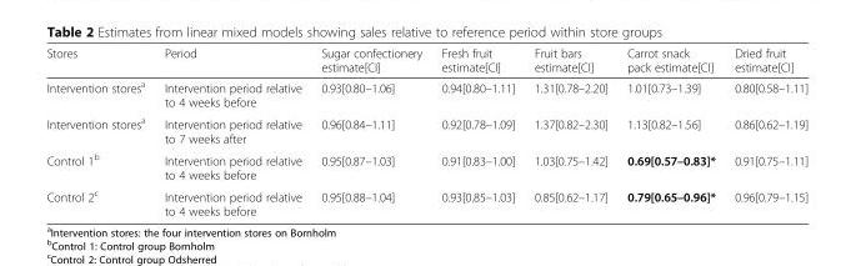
<table><thead><tr><td>Stores</td><td>Period</td><td>Sugar confectionery estimate[CI]</td><td>Fresh fruit estimate[CI]</td><td>Fruit bars estimate[CI]</td><td>Carrot snack pack estimate[CI]</td><td>Dried fruit estimate[CI]</td></tr></thead><tbody><tr><td>Intervention stores<sup>a</sup></td><td>Intervention period relative to 4 weeks before</td><td>0.93[0.80–1.06]</td><td>0.94[0.80–1.11]</td><td>1.31[0.78–2.20]</td><td>1.01[0.73–1.39]</td><td>0.80[0.58–1.11]</td></tr><tr><td>Intervention stores<sup>a</sup></td><td>Intervention period relative to 7 weeks after</td><td>0.96[0.84–1.11]</td><td>0.92[0.78–1.09]</td><td>1.37[0.82–2.30]</td><td>1.13[0.82–1.56]</td><td>0.86[0.62–1.19]</td></tr><tr><td>Control 1<sup>b</sup></td><td>Intervention period relative to 4 weeks before</td><td>0.95[0.87–1.03]</td><td>0.91[0.83–1.00]</td><td>1.03[0.75–1.42]</td><td>0.69[0.57–0.83]*</td><td>0.91[0.75–1.11]</td></tr><tr><td>Control 2<sup>c</sup></td><td>Intervention period relative to 4 weeks before</td><td>0.95[0.88–1.04]</td><td>0.93[0.85–1.03]</td><td>0.85[0.62–1.17]</td><td>0.79[0.65–0.96]*</td><td>0.96[0.79–1.15]</td></tr></tbody></table>